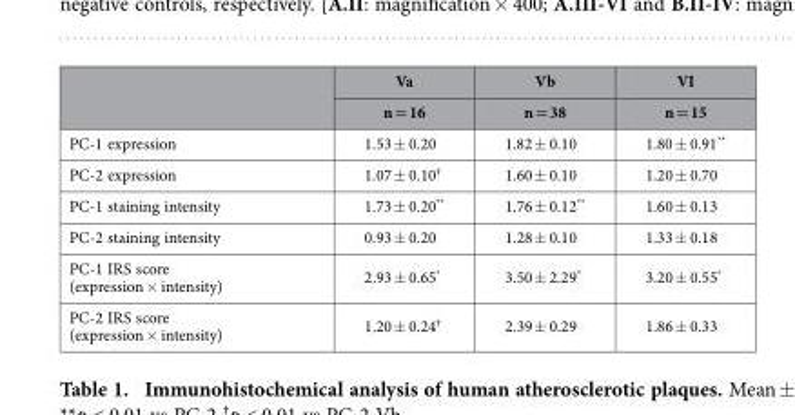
<table><thead><tr><td rowspan="2"></td><td rowspan="2">Va n = 16</td><td rowspan="2">Vb n = 38</td><td rowspan="2">VI n = 15</td></tr><tr></tr></thead><tbody><tr><td>PC-1 expression</td><td>1.53 ± 0.20</td><td>1.82 ± 0.10</td><td>1.80 ± 0.91**</td></tr><tr><td>PC-2 expression</td><td>1.07 ± 0.10<sup>†</sup></td><td>1.60 ± 0.10</td><td>1.20 ± 0.70</td></tr><tr><td>PC-1 staining intensity</td><td>1.73 ± 0.20**</td><td>1.76 ± 0.12**</td><td>1.60 ± 0.13</td></tr><tr><td>PC-2 staining intensity</td><td>0.93 ± 0.20</td><td>1.28 ± 0.10</td><td>1.33 ± 0.18</td></tr><tr><td>PC-1 IRS score (expression × intensity)</td><td>2.93 ± 0.65*</td><td>3.50 ± 2.29*</td><td>3.20 ± 0.55*</td></tr><tr><td>PC-2 IRS score (expression × intensity)</td><td>1.20 ± 0.24<sup>†</sup></td><td>2.39 ± 0.29</td><td>1.86 ± 0.33</td></tr></tbody></table>